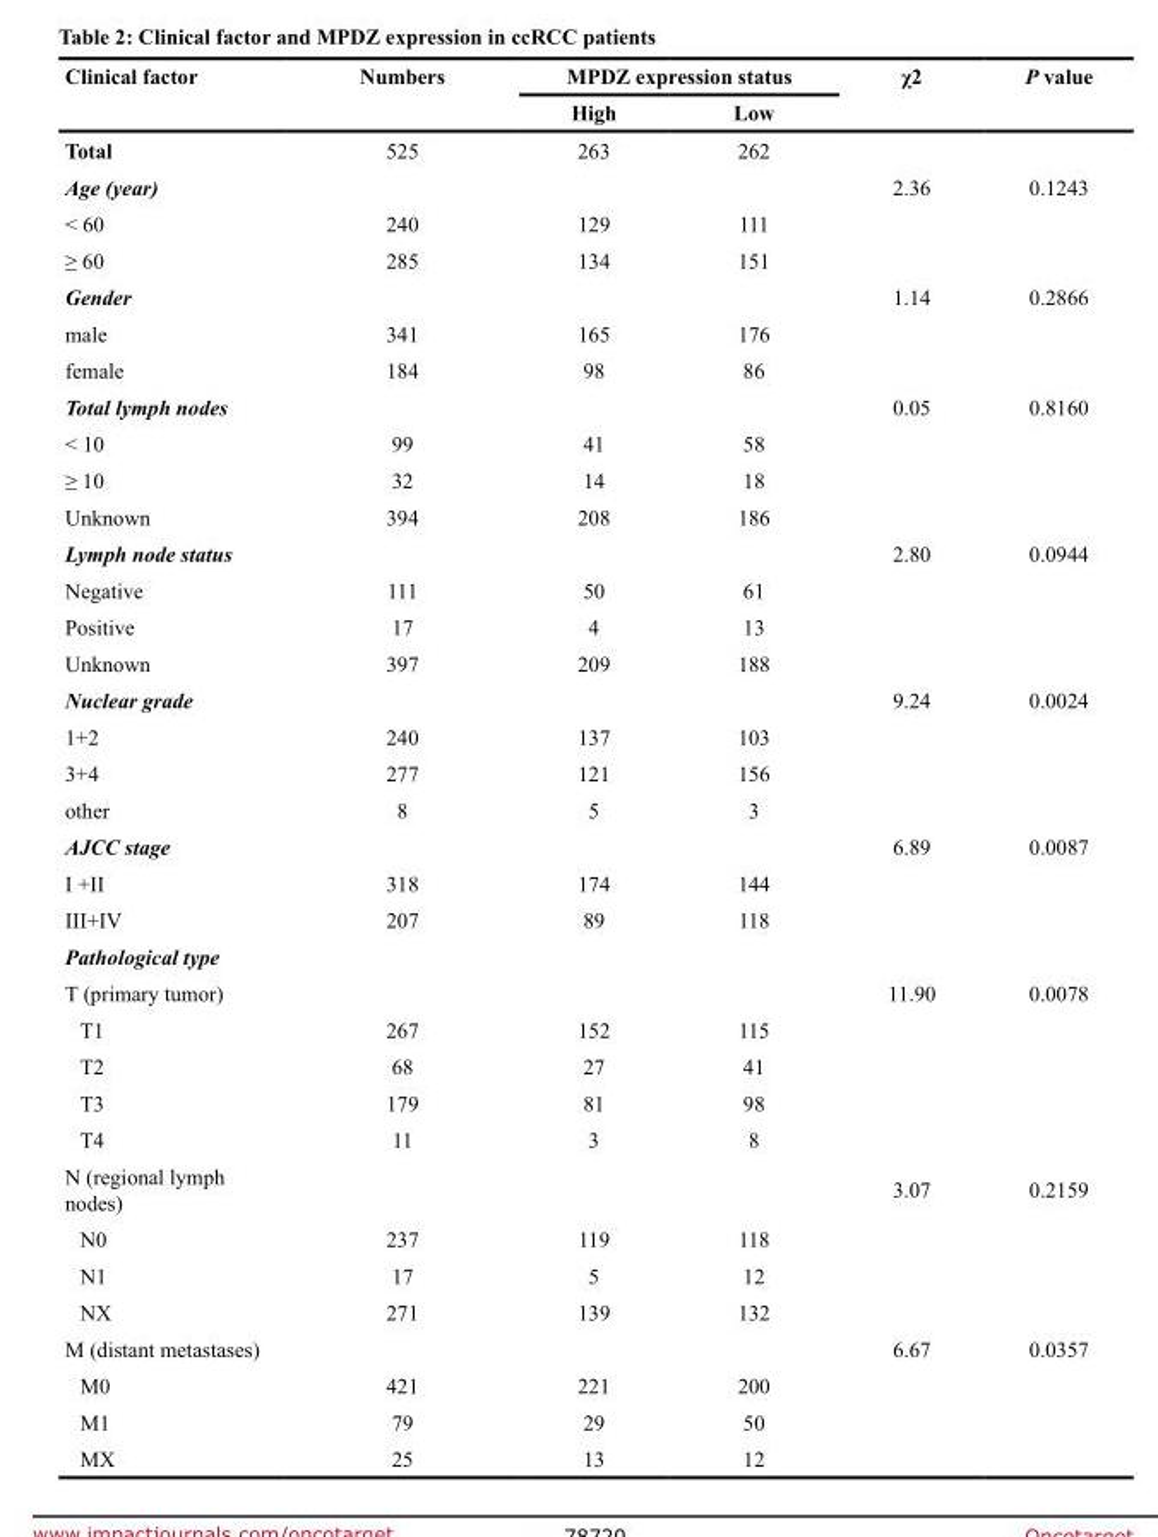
<table><thead><tr><td rowspan="2">Clinical factor</td><td rowspan="2">Numbers</td><td colspan="2">MPDZ expression status</td><td rowspan="2">χ2</td><td rowspan="2">P value</td></tr><tr><td>High</td><td>Low</td></tr></thead><tbody><tr><td>Total</td><td>525</td><td>263</td><td>262</td><td></td><td></td></tr><tr><td>Age (year)</td><td></td><td></td><td></td><td>2.36</td><td>0.1243</td></tr><tr><td>&lt; 60</td><td>240</td><td>129</td><td>111</td><td></td><td></td></tr><tr><td>≥ 60</td><td>285</td><td>134</td><td>151</td><td></td><td></td></tr><tr><td>Gender</td><td></td><td></td><td></td><td>1.14</td><td>0.2866</td></tr><tr><td>male</td><td>341</td><td>165</td><td>176</td><td></td><td></td></tr><tr><td>female</td><td>184</td><td>98</td><td>86</td><td></td><td></td></tr><tr><td>Total lymph nodes</td><td></td><td></td><td></td><td>0.05</td><td>0.8160</td></tr><tr><td>&lt; 10</td><td>99</td><td>41</td><td>58</td><td></td><td></td></tr><tr><td>≥ 10</td><td>32</td><td>14</td><td>18</td><td></td><td></td></tr><tr><td>Unknown</td><td>394</td><td>208</td><td>186</td><td></td><td></td></tr><tr><td>Lymph node status</td><td></td><td></td><td></td><td>2.80</td><td>0.0944</td></tr><tr><td>Negative</td><td>111</td><td>50</td><td>61</td><td></td><td></td></tr><tr><td>Positive</td><td>17</td><td>4</td><td>13</td><td></td><td></td></tr><tr><td>Unknown</td><td>397</td><td>209</td><td>188</td><td></td><td></td></tr><tr><td>Nuclear grade</td><td></td><td></td><td></td><td>9.24</td><td>0.0024</td></tr><tr><td>1+2</td><td>240</td><td>137</td><td>103</td><td></td><td></td></tr><tr><td>3+4</td><td>277</td><td>121</td><td>156</td><td></td><td></td></tr><tr><td>other</td><td>8</td><td>5</td><td>3</td><td></td><td></td></tr><tr><td>AJCC stage</td><td></td><td></td><td></td><td>6.89</td><td>0.0087</td></tr><tr><td>I +II</td><td>318</td><td>174</td><td>144</td><td></td><td></td></tr><tr><td>III+IV</td><td>207</td><td>89</td><td>118</td><td></td><td></td></tr><tr><td colspan="6">Pathological type</td></tr><tr><td>T (primary tumor)</td><td></td><td></td><td></td><td>11.90</td><td>0.0078</td></tr><tr><td>T1</td><td>267</td><td>152</td><td>115</td><td></td><td></td></tr><tr><td>T2</td><td>68</td><td>27</td><td>41</td><td></td><td></td></tr><tr><td>T3</td><td>179</td><td>81</td><td>98</td><td></td><td></td></tr><tr><td>T4</td><td>11</td><td>3</td><td>8</td><td></td><td></td></tr><tr><td>N (regional lymph nodes)</td><td></td><td></td><td></td><td>3.07</td><td>0.2159</td></tr><tr><td>N0</td><td>237</td><td>119</td><td>118</td><td></td><td></td></tr><tr><td>N1</td><td>17</td><td>5</td><td>12</td><td></td><td></td></tr><tr><td>NX</td><td>271</td><td>139</td><td>132</td><td></td><td></td></tr><tr><td>M (distant metastases)</td><td></td><td></td><td></td><td>6.67</td><td>0.0357</td></tr><tr><td>M0</td><td>421</td><td>221</td><td>200</td><td></td><td></td></tr><tr><td>M1</td><td>79</td><td>29</td><td>50</td><td></td><td></td></tr><tr><td>MX</td><td>25</td><td>13</td><td>12</td><td></td><td></td></tr></tbody></table>